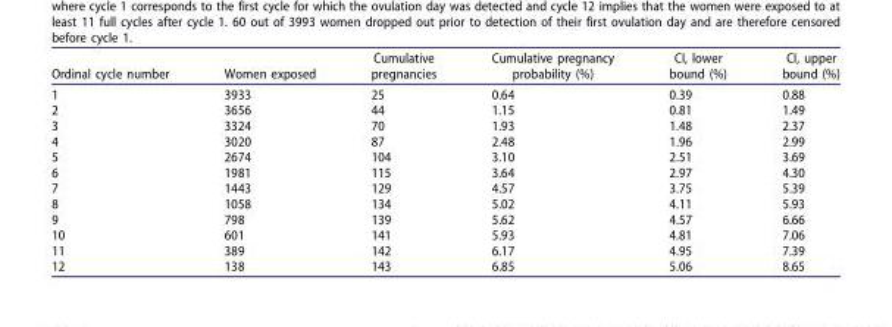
<table><thead><tr><td>Ordinal cycle number</td><td>Women exposed</td><td>Cumulative pregnancies</td><td>Cumulative pregnancy probability (%)</td><td>CI, lower bound (%)</td><td>CI, upper bound (%)</td></tr></thead><tbody><tr><td>1</td><td>3933</td><td>25</td><td>0.64</td><td>0.39</td><td>0.88</td></tr><tr><td>2</td><td>3656</td><td>44</td><td>1.15</td><td>0.81</td><td>1.49</td></tr><tr><td>3</td><td>3324</td><td>70</td><td>1.93</td><td>1.48</td><td>2.37</td></tr><tr><td>4</td><td>3020</td><td>87</td><td>2.48</td><td>1.96</td><td>2.99</td></tr><tr><td>5</td><td>2674</td><td>104</td><td>3.10</td><td>2.51</td><td>3.69</td></tr><tr><td>6</td><td>1981</td><td>115</td><td>3.64</td><td>2.97</td><td>4.30</td></tr><tr><td>7</td><td>1443</td><td>129</td><td>4.57</td><td>3.75</td><td>5.39</td></tr><tr><td>8</td><td>1058</td><td>134</td><td>5.02</td><td>4.11</td><td>5.93</td></tr><tr><td>9</td><td>798</td><td>139</td><td>5.62</td><td>4.57</td><td>6.66</td></tr><tr><td>10</td><td>601</td><td>141</td><td>5.93</td><td>4.81</td><td>7.06</td></tr><tr><td>11</td><td>389</td><td>142</td><td>6.17</td><td>4.95</td><td>7.39</td></tr><tr><td>12</td><td>138</td><td>143</td><td>6.85</td><td>5.06</td><td>8.65</td></tr></tbody></table>